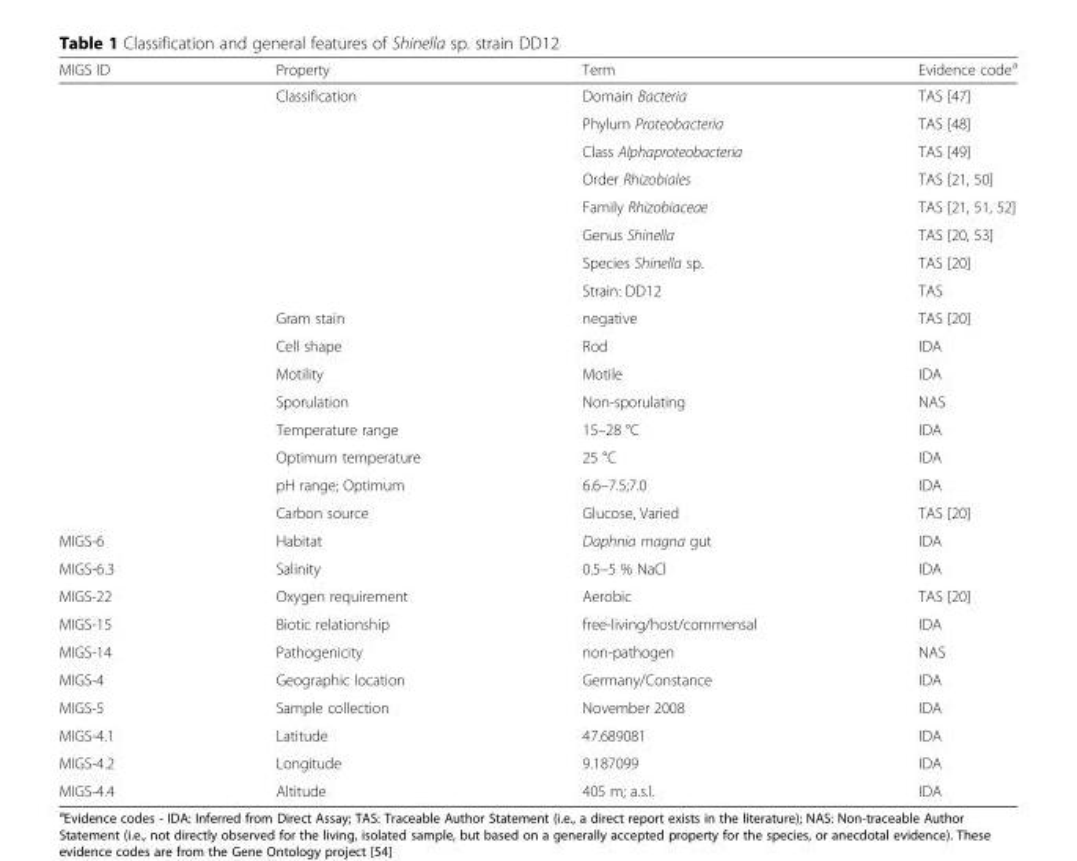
<table><thead><tr><td>MIGS ID</td><td>Property</td><td>Term</td><td>Evidence code<sup>a</sup></td></tr></thead><tbody><tr><td></td><td>Classification</td><td>Domain Bacteria</td><td>TAS [47]</td></tr><tr><td></td><td></td><td>Phylum Proteobacteria</td><td>TAS [48]</td></tr><tr><td></td><td></td><td>Class Alphaproteobacteria</td><td>TAS [49]</td></tr><tr><td></td><td></td><td>Order Rhizobiales</td><td>TAS [21, 50]</td></tr><tr><td></td><td></td><td>Family Rhizobiaceae</td><td>TAS [21, 51, 52]</td></tr><tr><td></td><td></td><td>Genus Shinella</td><td>TAS [20, 53]</td></tr><tr><td></td><td></td><td>Species Shinella sp.</td><td>TAS [20]</td></tr><tr><td></td><td></td><td>Strain: DD12</td><td>TAS</td></tr><tr><td></td><td>Gram stain</td><td>negative</td><td>TAS [20]</td></tr><tr><td></td><td>Cell shape</td><td>Rod</td><td>IDA</td></tr><tr><td></td><td>Motility</td><td>Motile</td><td>IDA</td></tr><tr><td></td><td>Sporulation</td><td>Non-sporulating</td><td>NAS</td></tr><tr><td></td><td>Temperature range</td><td>15–28 °C</td><td>IDA</td></tr><tr><td></td><td>Optimum temperature</td><td>25 °C</td><td>IDA</td></tr><tr><td></td><td>pH range; Optimum</td><td>6.6–7.5;7.0</td><td>IDA</td></tr><tr><td></td><td>Carbon source</td><td>Glucose, Varied</td><td>TAS [20]</td></tr><tr><td>MIGS-6</td><td>Habitat</td><td>Daphnia magna gut</td><td>IDA</td></tr><tr><td>MIGS-6.3</td><td>Salinity</td><td>0.5–5 % NaCl</td><td>IDA</td></tr><tr><td>MIGS-22</td><td>Oxygen requirement</td><td>Aerobic</td><td>TAS [20]</td></tr><tr><td>MIGS-15</td><td>Biotic relationship</td><td>free-living/host/commensal</td><td>IDA</td></tr><tr><td>MIGS-14</td><td>Pathogenicity</td><td>non-pathogen</td><td>NAS</td></tr><tr><td>MIGS-4</td><td>Geographic location</td><td>Germany/Constance</td><td>IDA</td></tr><tr><td>MIGS-5</td><td>Sample collection</td><td>November 2008</td><td>IDA</td></tr><tr><td>MIGS-4.1</td><td>Latitude</td><td>47.689081</td><td>IDA</td></tr><tr><td>MIGS-4.2</td><td>Longitude</td><td>9.187099</td><td>IDA</td></tr><tr><td>MIGS-4.4</td><td>Altitude</td><td>405 m; a.s.l.</td><td>IDA</td></tr></tbody></table>